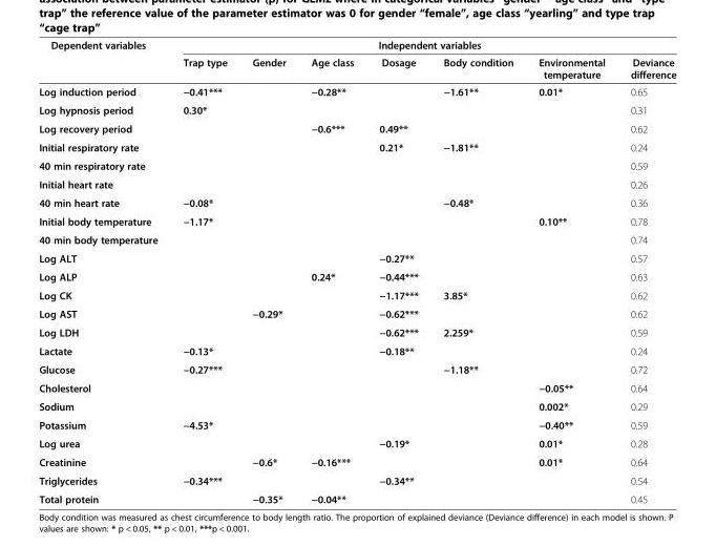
<table><thead><tr><td rowspan="2">Dependent variables</td><td colspan="7">Independent variables</td></tr><tr><td>Trap type</td><td>Gender</td><td>Age class</td><td>Dosage</td><td>Body condition</td><td>Environmental temperature</td><td>Deviance difference</td></tr></thead><tbody><tr><td>Log induction period</td><td>−0.41***</td><td></td><td>−0.28**</td><td></td><td>−1.61**</td><td>0.01*</td><td>0.65</td></tr><tr><td>Log hypnosis period</td><td>0.30*</td><td></td><td></td><td></td><td></td><td></td><td>0.31</td></tr><tr><td>Log recovery period</td><td></td><td></td><td>−0.6***</td><td>0.49**</td><td></td><td></td><td>0.62</td></tr><tr><td>Initial respiratory rate</td><td></td><td></td><td></td><td>0.21*</td><td>−1.81**</td><td></td><td>0.24</td></tr><tr><td>40 min respiratory rate</td><td></td><td></td><td></td><td></td><td></td><td></td><td>0.59</td></tr><tr><td>Initial heart rate</td><td></td><td></td><td></td><td></td><td></td><td></td><td>0.26</td></tr><tr><td>40 min heart rate</td><td>−0.08*</td><td></td><td></td><td></td><td>−0.48*</td><td></td><td>0.36</td></tr><tr><td>Initial body temperature</td><td>−1.17*</td><td></td><td></td><td></td><td></td><td>0.10**</td><td>0.78</td></tr><tr><td>40 min body temperature</td><td></td><td></td><td></td><td></td><td></td><td></td><td>0.74</td></tr><tr><td>Log ALT</td><td></td><td></td><td></td><td>−0.27**</td><td></td><td></td><td>0.57</td></tr><tr><td>Log ALP</td><td></td><td></td><td>0.24*</td><td>−0.44***</td><td></td><td></td><td>0.63</td></tr><tr><td>Log CK</td><td></td><td></td><td></td><td>−1.17***</td><td>3.85*</td><td></td><td>0.62</td></tr><tr><td>Log AST</td><td></td><td>−0.29*</td><td></td><td>−0.62***</td><td></td><td></td><td>0.62</td></tr><tr><td>Log LDH</td><td></td><td></td><td></td><td>−0.62***</td><td>2.259*</td><td></td><td>0.59</td></tr><tr><td>Lactate</td><td>−0.13*</td><td></td><td></td><td>−0.18**</td><td></td><td></td><td>0.24</td></tr><tr><td>Glucose</td><td>−0.27***</td><td></td><td></td><td></td><td>−1.18**</td><td></td><td>0.72</td></tr><tr><td>Cholesterol</td><td></td><td></td><td></td><td></td><td></td><td>−0.05**</td><td>0.64</td></tr><tr><td>Sodium</td><td></td><td></td><td></td><td></td><td></td><td>0.002*</td><td>0.29</td></tr><tr><td>Potassium</td><td>−4.53*</td><td></td><td></td><td></td><td></td><td>−0.40**</td><td>0.59</td></tr><tr><td>Log urea</td><td></td><td></td><td></td><td>−0.19*</td><td></td><td>0.01*</td><td>0.28</td></tr><tr><td>Creatinine</td><td></td><td>−0.6*</td><td>−0.16***</td><td></td><td></td><td>0.01*</td><td>0.64</td></tr><tr><td>Triglycerides</td><td>−0.34***</td><td></td><td></td><td>−0.34**</td><td></td><td></td><td>0.54</td></tr><tr><td>Total protein</td><td></td><td>−0.35*</td><td>−0.04**</td><td></td><td></td><td></td><td>0.45</td></tr></tbody></table>